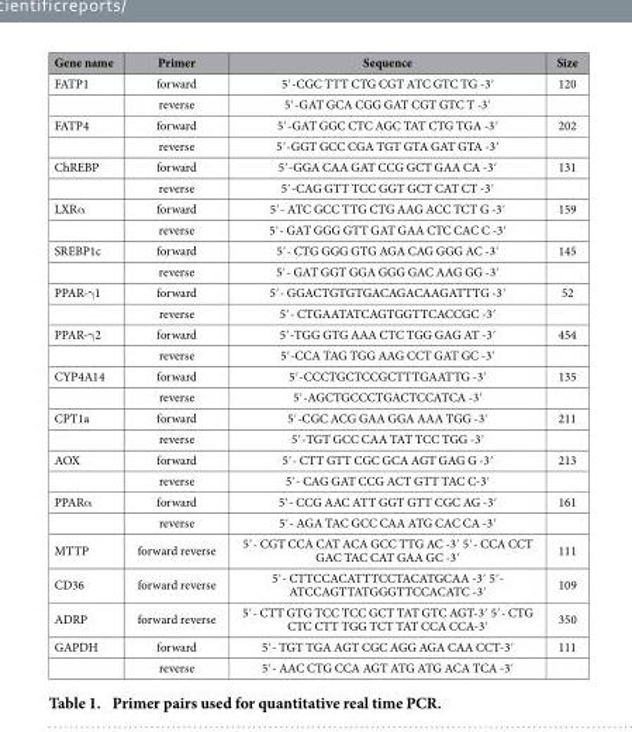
<table><thead><tr><td>Gene name</td><td>Primer</td><td>Sequence</td><td>Size</td></tr></thead><tbody><tr><td rowspan="2">FATP1</td><td>forward</td><td>5′ -CGC TTT CTG CGT ATC GTC TG -3′</td><td>120</td></tr><tr><td>reverse</td><td>5′ -GAT GCA CGG GAT CGT GTC T -3′</td><td></td></tr><tr><td rowspan="2">FATP4</td><td>forward</td><td>5′ -GAT GGC CTC AGC TAT CTG TGA -3′</td><td>202</td></tr><tr><td>reverse</td><td>5′ -GGT GCC CGA TGT GTA GAT GTA -3′</td><td></td></tr><tr><td rowspan="2">ChREBP</td><td>forward</td><td>5′ -GGA CAA GAT CCG GCT GAA CA -3′</td><td>131</td></tr><tr><td>reverse</td><td>5′ -CAG GTT TCC GGT GCT CAT CT -3′</td><td></td></tr><tr><td rowspan="2">LXRα</td><td>forward</td><td>5′ - ATC GCC TTG CTG AAG ACC TCT G -3′</td><td>159</td></tr><tr><td>reverse</td><td>5′ - GAT GGG GTT GAT GAA CTC CAC C -3′</td><td></td></tr><tr><td rowspan="2">SREBP1c</td><td>forward</td><td>5′ - CTG GGG GTG AGA CAG GGG AC -3′</td><td>145</td></tr><tr><td>reverse</td><td>5′ - GAT GGT GGA GGG GAC AAG GG -3′</td><td></td></tr><tr><td rowspan="2">PPAR-γ 1</td><td>forward</td><td>5′ - GGACTGTGTGACAGACAAGATTTG -3′</td><td>52</td></tr><tr><td>reverse</td><td>5′ - CTGAATATCAGTGGTTCACCGC -3′</td><td></td></tr><tr><td rowspan="2">PPAR-γ 2</td><td>forward</td><td>5′ -TGG GTG AAA CTC TGG GAG AT -3′</td><td>454</td></tr><tr><td>reverse</td><td>5′ -CCA TAG TGG AAG CCT GAT GC -3′</td><td></td></tr><tr><td rowspan="2">CYP4A14</td><td>forward</td><td>5′ -CCCTGCTCCGCTTTGAATTG -3′</td><td>135</td></tr><tr><td>reverse</td><td>5′ -AGCTGCCCTGACTCCATCA -3′</td><td></td></tr><tr><td rowspan="2">CPT1a</td><td>forward</td><td>5′ -CGC ACG GAA GGA AAA TGG -3′</td><td>211</td></tr><tr><td>reverse</td><td>5′ -TGT GCC CAA TAT TCC TGG -3′</td><td></td></tr><tr><td rowspan="2">AOX</td><td>forward</td><td>5′ - CTT GTT CGC GCA AGT GAG G -3′</td><td>213</td></tr><tr><td>reverse</td><td>5′ - CAG GAT CCG ACT GTT TAC C-3′</td><td></td></tr><tr><td rowspan="2">PPARα</td><td>forward</td><td>5′ - CCG AAC ATT GGT GTT CGC AG -3′</td><td>161</td></tr><tr><td>reverse</td><td>5′ - AGA TAC GCC CAA ATG CAC CA -3′</td><td></td></tr><tr><td>MTTP</td><td>forward reverse</td><td>5′ - CGT CCA CAT ACA GCC TTG AC -3′ 5′ - CCA CCT GAC TAC CAT GAA GC -3′</td><td>111</td></tr><tr><td>CD36</td><td>forward reverse</td><td>5′ - CTTCCACATTTCCTACATGCAA -3′ 5′ - ATCCAGTTATGGGTTCCACATC -3′</td><td>109</td></tr><tr><td>ADRP</td><td>forward reverse</td><td>5′ - CTT GTG TCC TCC GCT TAT GTC AGT-3′ 5′ - CTG CTC CTT TGG TCT TAT CCA CCA-3′</td><td>350</td></tr><tr><td rowspan="2">GAPDH</td><td>forward</td><td>5′ - TGT TGA AGT CGC AGG AGA CAA CCT-3′</td><td>111</td></tr><tr><td>reverse</td><td>5′ - AAC CTG CCA AGT ATG ATG ACA TCA -3′</td><td></td></tr></tbody></table>